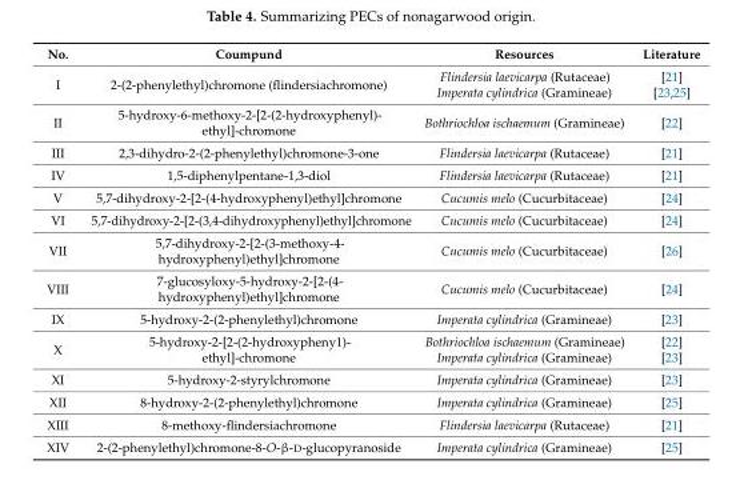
<table><thead><tr><td>No.</td><td>Coumpund</td><td>Resources</td><td>Literature</td></tr></thead><tbody><tr><td>I</td><td>2-(2-phenylethyl)chromone (flindersiachromone)</td><td>Flindersia laevicarpa (Rutaceae) Imperata cylindrica (Gramineae)</td><td>[21] [23,25]</td></tr><tr><td>II</td><td>5-hydroxy-6-methoxy-2-[2-(2-hydroxyphenyl)- ethyl]-chromone</td><td>Bothriochloa ischaemum (Gramineae)</td><td>[22]</td></tr><tr><td>III</td><td>2,3-dihydro-2-(2-phenylethyl)chromone-3-one</td><td>Flindersia laevicarpa (Rutaceae)</td><td>[21]</td></tr><tr><td>IV</td><td>1,5-diphenylpentane-1,3-diol</td><td>Flindersia laevicarpa (Rutaceae)</td><td>[21]</td></tr><tr><td>V</td><td>5,7-dihydroxy-2-[2-(4-hydroxyphenyl)ethyl]chromone</td><td>Cucumis melo (Cucurbitaceae)</td><td>[24]</td></tr><tr><td>VI</td><td>5,7-dihydroxy-2-[2-(3,4-dihydroxyphenyl)ethyl]chromone</td><td>Cucumis melo (Cucurbitaceae)</td><td>[24]</td></tr><tr><td>VII</td><td>5,7-dihydroxy-2-[2-(3-methoxy-4- hydroxyphenyl)ethyl]chromone</td><td>Cucumis melo (Cucurbitaceae)</td><td>[26]</td></tr><tr><td>VIII</td><td>7-glucosyloxy-5-hydroxy-2-[2-(4- hydroxyphenyl)ethyl]chromone</td><td>Cucumis melo (Cucurbitaceae)</td><td>[24]</td></tr><tr><td>IX</td><td>5-hydroxy-2-(2-phenylethyl)chromone</td><td>Imperata cylindrica (Gramineae)</td><td>[23]</td></tr><tr><td>X</td><td>5-hydroxy-2-[2-(2-hydroxypheny1)- ethyl]-chromone</td><td>Bothriochloa ischaemum (Gramineae) Imperata cylindrica (Gramineae)</td><td>[22] [23]</td></tr><tr><td>XI</td><td>5-hydroxy-2-styrylchromone</td><td>Imperata cylindrica (Gramineae)</td><td>[23]</td></tr><tr><td>XII</td><td>8-hydroxy-2-(2-phenylethyl)chromone</td><td>Imperata cylindrica (Gramineae)</td><td>[25]</td></tr><tr><td>XIII</td><td>8-methoxy-flindersiachromone</td><td>Flindersia laevicarpa (Rutaceae)</td><td>[21]</td></tr><tr><td>XIV</td><td>2-(2-phenylethyl)chromone-8-O-β-D-glucopyranoside</td><td>Imperata cylindrica (Gramineae)</td><td>[25]</td></tr></tbody></table>